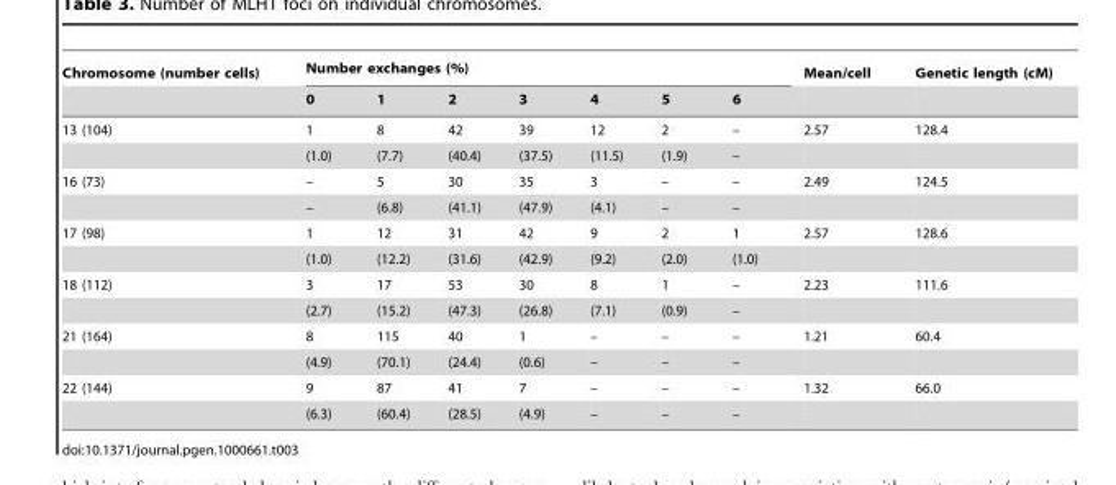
<table><thead><tr><td rowspan="2">Chromosome (number cells)</td><td colspan="7">Number exchanges (%)</td><td rowspan="2">Mean/cell</td><td rowspan="2">Genetic length (cM)</td></tr><tr><td>0</td><td>1</td><td>2</td><td>3</td><td>4</td><td>5</td><td>6</td></tr></thead><tbody><tr><td rowspan="2">13 (104)</td><td>1</td><td>8</td><td>42</td><td>39</td><td>12</td><td>2</td><td>–</td><td>2.57</td><td>128.4</td></tr><tr><td>(1.0)</td><td>(7.7)</td><td>(40.4)</td><td>(37.5)</td><td>(11.5)</td><td>(1.9)</td><td>–</td><td></td><td></td></tr><tr><td rowspan="2">16 (73)</td><td>–</td><td>5</td><td>30</td><td>35</td><td>3</td><td>–</td><td>–</td><td>2.49</td><td>124.5</td></tr><tr><td>–</td><td>(6.8)</td><td>(41.1)</td><td>(47.9)</td><td>(4.1)</td><td>–</td><td>–</td><td></td><td></td></tr><tr><td rowspan="2">17 (98)</td><td>1</td><td>12</td><td>31</td><td>42</td><td>9</td><td>2</td><td>1</td><td>2.57</td><td>128.6</td></tr><tr><td>(1.0)</td><td>(12.2)</td><td>(31.6)</td><td>(42.9)</td><td>(9.2)</td><td>(2.0)</td><td>(1.0)</td><td></td><td></td></tr><tr><td rowspan="2">18 (112)</td><td>3</td><td>17</td><td>53</td><td>30</td><td>8</td><td>1</td><td>–</td><td>2.23</td><td>111.6</td></tr><tr><td>(2.7)</td><td>(15.2)</td><td>(47.3)</td><td>(26.8)</td><td>(7.1)</td><td>(0.9)</td><td>–</td><td></td><td></td></tr><tr><td rowspan="2">21 (164)</td><td>8</td><td>115</td><td>40</td><td>1</td><td>–</td><td>–</td><td>–</td><td>1.21</td><td>60.4</td></tr><tr><td>(4.9)</td><td>(70.1)</td><td>(24.4)</td><td>(0.6)</td><td>–</td><td>–</td><td>–</td><td></td><td></td></tr><tr><td rowspan="2">22 (144)</td><td>9</td><td>87</td><td>41</td><td>7</td><td>–</td><td>–</td><td>–</td><td>1.32</td><td>66.0</td></tr><tr><td>(6.3)</td><td>(60.4)</td><td>(28.5)</td><td>(4.9)</td><td>–</td><td>–</td><td>–</td><td></td><td></td></tr></tbody></table>